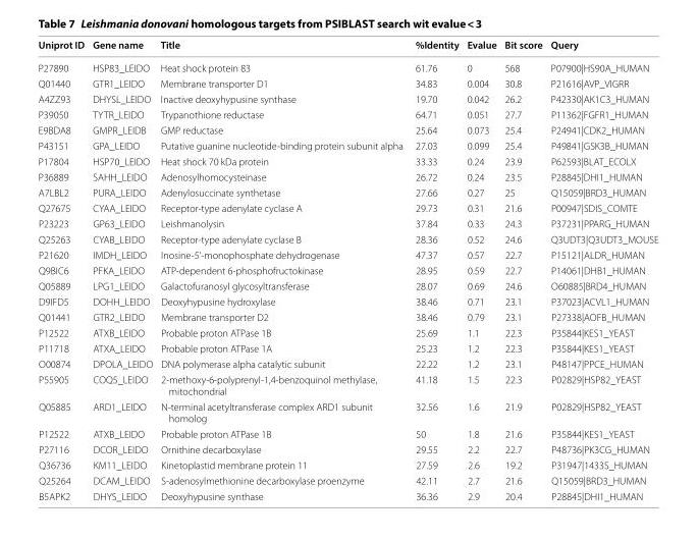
<table><thead><tr><td>Uniprot ID</td><td>Gene name</td><td>Title</td><td>%Identity</td><td>Evalue</td><td>Bit score</td><td>Query</td></tr></thead><tbody><tr><td>P27890</td><td>HSP83_LEIDO</td><td>Heat shock protein 83</td><td>61.76</td><td>0</td><td>568</td><td>P07900|HS90A_HUMAN</td></tr><tr><td>Q01440</td><td>GTR1_LEIDO</td><td>Membrane transporter D1</td><td>34.83</td><td>0.004</td><td>30.8</td><td>P21616|AVP_VIGRR</td></tr><tr><td>A4ZZ93</td><td>DHYSL_LEIDO</td><td>Inactive deoxyhypusine synthase</td><td>19.70</td><td>0.042</td><td>26.2</td><td>P42330|AK1C3_HUMAN</td></tr><tr><td>P39050</td><td>TYTR_LEIDO</td><td>Trypanothione reductase</td><td>64.71</td><td>0.051</td><td>27.7</td><td>P11362|FGFR1_HUMAN</td></tr><tr><td>E9BDA8</td><td>GMPR_LEIDB</td><td>GMP reductase</td><td>25.64</td><td>0.073</td><td>25.4</td><td>P24941|CDK2_HUMAN</td></tr><tr><td>P43151</td><td>GPA_LEIDO</td><td>Putative guanine nucleotide-binding protein subunit alpha</td><td>27.03</td><td>0.099</td><td>25.4</td><td>P49841|GSK3B_HUMAN</td></tr><tr><td>P17804</td><td>HSP70_LEIDO</td><td>Heat shock 70 kDa protein</td><td>33.33</td><td>0.24</td><td>23.9</td><td>P62593|BLAT_ECOLX</td></tr><tr><td>P36889</td><td>SAHH_LEIDO</td><td>Adenosylhomocysteinase</td><td>26.72</td><td>0.24</td><td>23.5</td><td>P28845|DHI1_HUMAN</td></tr><tr><td>A7LBL2</td><td>PURA_LEIDO</td><td>Adenylosuccinate synthetase</td><td>27.66</td><td>0.27</td><td>25</td><td>Q15059|BRD3_HUMAN</td></tr><tr><td>Q27675</td><td>CYAA_LEIDO</td><td>Receptor-type adenylate cyclase A</td><td>29.73</td><td>0.31</td><td>21.6</td><td>P00947|SDIS_COMTE</td></tr><tr><td>P23223</td><td>GP63_LEIDO</td><td>Leishmanolysin</td><td>37.84</td><td>0.33</td><td>24.3</td><td>P37231|PPARG_HUMAN</td></tr><tr><td>Q25263</td><td>CYAB_LEIDO</td><td>Receptor-type adenylate cyclase B</td><td>28.36</td><td>0.52</td><td>24.6</td><td>Q3UDT3|Q3UDT3_MOUSE</td></tr><tr><td>P21620</td><td>IMDH_LEIDO</td><td>Inosine-5’-monophosphate dehydrogenase</td><td>47.37</td><td>0.57</td><td>22.7</td><td>P15121|ALDR_HUMAN</td></tr><tr><td>Q9BIC6</td><td>PFKA_LEIDO</td><td>ATP-dependent 6-phosphofructokinase</td><td>28.95</td><td>0.59</td><td>22.7</td><td>P14061|DHB1_HUMAN</td></tr><tr><td>Q05889</td><td>LPG1_LEIDO</td><td>Galactofuranosyl glycosyltransferase</td><td>28.07</td><td>0.69</td><td>24.6</td><td>O60885|BRD4_HUMAN</td></tr><tr><td>D9IFD5</td><td>DOHH_LEIDO</td><td>Deoxyhypusine hydroxylase</td><td>38.46</td><td>0.71</td><td>23.1</td><td>P37023|ACVL1_HUMAN</td></tr><tr><td>Q01441</td><td>GTR2_LEIDO</td><td>Membrane transporter D2</td><td>38.46</td><td>0.79</td><td>23.1</td><td>P27338|AOFB_HUMAN</td></tr><tr><td>P12522</td><td>ATXB_LEIDO</td><td>Probable proton ATPase 1B</td><td>25.69</td><td>1.1</td><td>22.3</td><td>P35844|KES1_YEAST</td></tr><tr><td>P11718</td><td>ATXA_LEIDO</td><td>Probable proton ATPase 1A</td><td>25.23</td><td>1.2</td><td>22.3</td><td>P35844|KES1_YEAST</td></tr><tr><td>O00874</td><td>DPOLA_LEIDO</td><td>DNA polymerase alpha catalytic subunit</td><td>22.22</td><td>1.2</td><td>23.1</td><td>P48147|PPCE_HUMAN</td></tr><tr><td>P55905</td><td>COQ5_LEIDO</td><td>2-methoxy-6-polyprenyl-1,4-benzoquinol methylase, mitochondrial</td><td>41.18</td><td>1.5</td><td>22.3</td><td>P02829|HSP82_YEAST</td></tr><tr><td>Q05885</td><td>ARD1_LEIDO</td><td>N-terminal acetyltransferase complex ARD1 subunit homolog</td><td>32.56</td><td>1.6</td><td>21.9</td><td>P02829|HSP82_YEAST</td></tr><tr><td>P12522</td><td>ATXB_LEIDO</td><td>Probable proton ATPase 1B</td><td>50</td><td>1.8</td><td>21.6</td><td>P35844|KES1_YEAST</td></tr><tr><td>P27116</td><td>DCOR_LEIDO</td><td>Ornithine decarboxylase</td><td>29.55</td><td>2.2</td><td>22.7</td><td>P48736|PK3CG_HUMAN</td></tr><tr><td>Q36736</td><td>KM11_LEIDO</td><td>Kinetoplastid membrane protein 11</td><td>27.59</td><td>2.6</td><td>19.2</td><td>P31947|1433S_HUMAN</td></tr><tr><td>Q25264</td><td>DCAM_LEIDO</td><td>S-adenosylmethionine decarboxylase proenzyme</td><td>42.11</td><td>2.7</td><td>21.6</td><td>Q15059|BRD3_HUMAN</td></tr><tr><td>B5APK2</td><td>DHYS_LEIDO</td><td>Deoxyhypusine synthase</td><td>36.36</td><td>2.9</td><td>20.4</td><td>P28845|DHI1_HUMAN</td></tr></tbody></table>